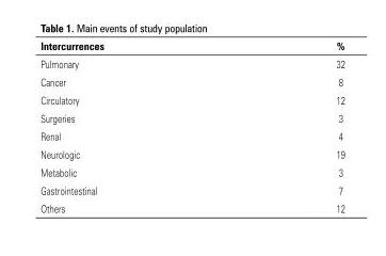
<table><thead><tr><td>Intercurrences</td><td>%</td></tr></thead><tbody><tr><td>Pulmonary</td><td>32</td></tr><tr><td>Cancer</td><td>8</td></tr><tr><td>Circulatory</td><td>12</td></tr><tr><td>Surgeries</td><td>3</td></tr><tr><td>Renal</td><td>4</td></tr><tr><td>Neurologic</td><td>19</td></tr><tr><td>Metabolic</td><td>3</td></tr><tr><td>Gastrointestinal</td><td>7</td></tr><tr><td>Others</td><td>12</td></tr></tbody></table>